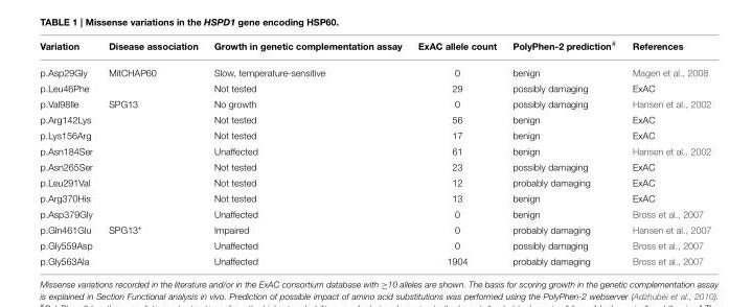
<table><thead><tr><td>Variation</td><td>Disease association</td><td>Growth in genetic complementation assay</td><td>ExAC allele count</td><td>PolyPhen-2 prediction<sup>#</sup></td><td>References</td></tr></thead><tbody><tr><td>p.Asp29Gly</td><td>MitCHAP60</td><td>Slow, temperature-sensitive</td><td>0</td><td>benign</td><td>Magen et al., 2008</td></tr><tr><td>p.Leu46Phe</td><td></td><td>Not tested</td><td>29</td><td>possibly damaging</td><td>ExAC</td></tr><tr><td>p.Val98Ile</td><td>SPG13</td><td>No growth</td><td>0</td><td>possibly damaging</td><td>Hansen et al., 2002</td></tr><tr><td>p.Arg142Lys</td><td></td><td>Not tested</td><td>56</td><td>benign</td><td>ExAC</td></tr><tr><td>p.Lys156Arg</td><td></td><td>Not tested</td><td>17</td><td>benign</td><td>ExAC</td></tr><tr><td>p.Asn184Ser</td><td></td><td>Unaffected</td><td>61</td><td>benign</td><td>Hansen et al., 2002</td></tr><tr><td>p.Asn265Ser</td><td></td><td>Not tested</td><td>23</td><td>possibly damaging</td><td>ExAC</td></tr><tr><td>p.Leu291Val</td><td></td><td>Not tested</td><td>12</td><td>probably damaging</td><td>ExAC</td></tr><tr><td>p.Arg370His</td><td></td><td>Not tested</td><td>13</td><td>benign</td><td>ExAC</td></tr><tr><td>p.Asp379Gly</td><td></td><td>Unaffected</td><td>0</td><td>benign</td><td>Bross et al., 2007</td></tr><tr><td>p.Gln461Glu</td><td>SPG13*</td><td>Impaired</td><td>0</td><td>probably damaging</td><td>Hansen et al., 2007</td></tr><tr><td>p.Gly559Asp</td><td></td><td>Unaffected</td><td>0</td><td>possibly damaging</td><td>Bross et al., 2007</td></tr><tr><td>p.Gly563Ala</td><td></td><td>Unaffected</td><td>1904</td><td>probably damaging</td><td>Bross et al., 2007</td></tr></tbody></table>